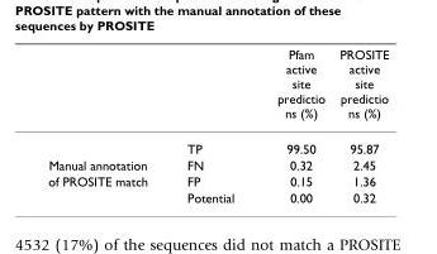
<table><thead><tr><td></td><td></td><td>Pfam active site predictio ns (%)</td><td>PROSITE active site predictio ns (%)</td></tr></thead><tbody><tr><td></td><td>TP</td><td>99.50</td><td>95.87</td></tr><tr><td>Manual annotation</td><td>FN</td><td>0.32</td><td>2.45</td></tr><tr><td rowspan="2">of PROSITE match</td><td>FP</td><td>0.15</td><td>1.36</td></tr><tr><td>Potential</td><td>0.00</td><td>0.32</td></tr></tbody></table>